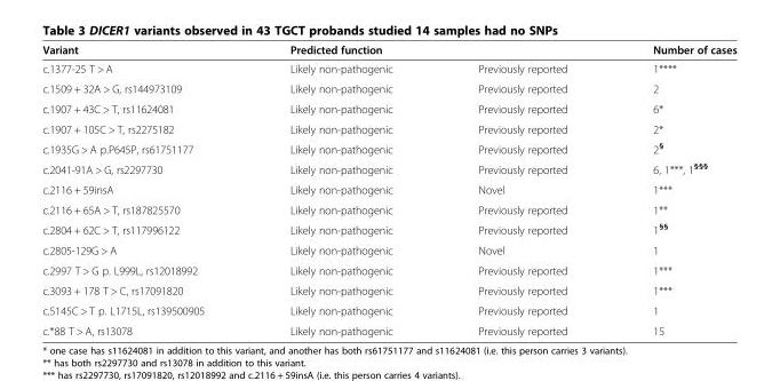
<table><thead><tr><td>Variant</td><td>Predicted function</td><td></td><td>Number of cases</td></tr></thead><tbody><tr><td>c.1377-25 T &gt; A</td><td>Likely non-pathogenic</td><td>Previously reported</td><td>1****</td></tr><tr><td>c.1509 + 32A &gt; G, rs144973109</td><td>Likely non-pathogenic</td><td>Previously reported</td><td>2</td></tr><tr><td>c.1907 + 43C &gt; T, rs11624081</td><td>Likely non-pathogenic</td><td>Previously reported</td><td>6*</td></tr><tr><td>c.1907 + 105C &gt; T, rs2275182</td><td>Likely non-pathogenic</td><td>Previously reported</td><td>2*</td></tr><tr><td>c.1935G &gt; A p.P645P, rs61751177</td><td>Likely non-pathogenic</td><td>Previously reported</td><td>2<sup>§</sup></td></tr><tr><td>c.2041-91A &gt; G, rs2297730</td><td>Likely non-pathogenic</td><td>Previously reported</td><td>6, 1***, 1<sup>§§§</sup></td></tr><tr><td>c.2116 + 59insA</td><td>Likely non-pathogenic</td><td>Novel</td><td>1***</td></tr><tr><td>c.2116 + 65A &gt; T, rs187825570</td><td>Likely non-pathogenic</td><td>Previously reported</td><td>1**</td></tr><tr><td>c.2804 + 62C &gt; T, rs117996122</td><td>Likely non-pathogenic</td><td>Previously reported</td><td>1<sup>§§</sup></td></tr><tr><td>c.2805-129G &gt; A</td><td>Likely non-pathogenic</td><td>Novel</td><td>1</td></tr><tr><td>c.2997 T &gt; G p. L999L, rs12018992</td><td>Likely non-pathogenic</td><td>Previously reported</td><td>1***</td></tr><tr><td>c.3093 + 178 T &gt; C, rs17091820</td><td>Likely non-pathogenic</td><td>Previously reported</td><td>1***</td></tr><tr><td>c.5145C &gt; T p. L1715L, rs139500905</td><td>Likely non-pathogenic</td><td>Previously reported</td><td>1</td></tr><tr><td>c.*88 T &gt; A, rs13078</td><td>Likely non-pathogenic</td><td>Previously reported</td><td>15</td></tr></tbody></table>